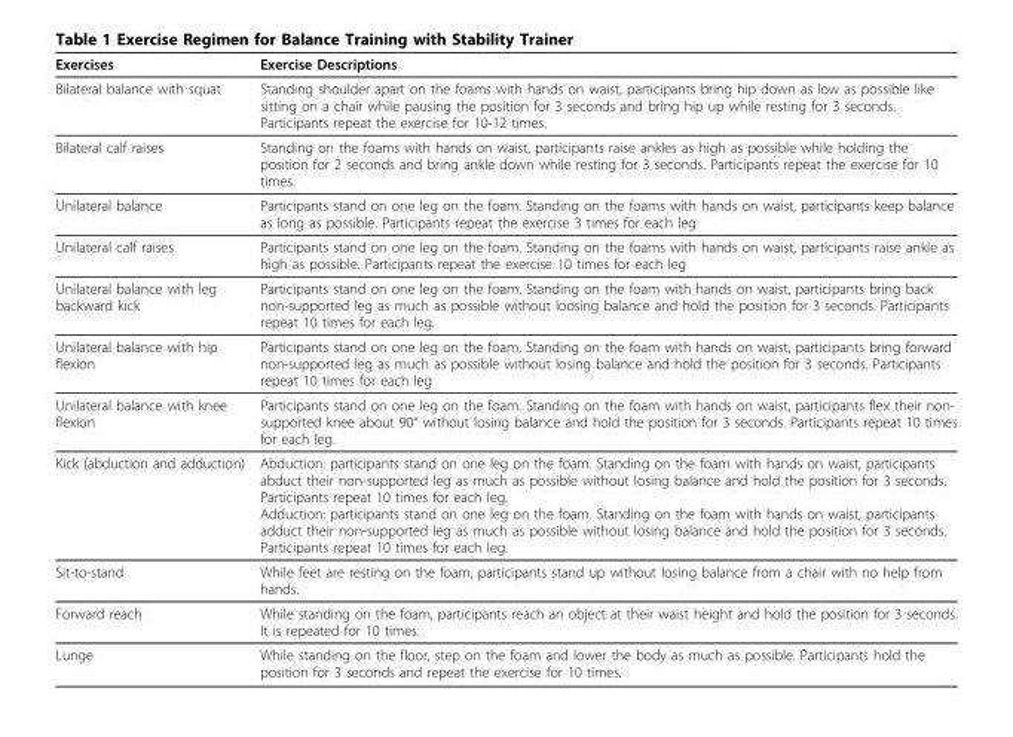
<table><thead><tr><td>Exercises</td><td>Exercise Descriptions</td></tr></thead><tbody><tr><td>Bilateral balance with squat</td><td>Standing shoulder apart on the foams with hands on waist, participants bring hip down as low as possible like sitting on a chair while pausing the position for 3 seconds and bring hip up while resting for 3 seconds. Participants repeat the exercise for 10-12 times.</td></tr><tr><td>Bilateral calf raises</td><td>Standing on the foams with hands on waist, participants raise ankles as high as possible while holding the position for 2 seconds and bring ankle down while resting for 3 seconds. Participants repeat the exercise for 10 times.</td></tr><tr><td>Unilateral balance</td><td>Participants stand on one leg on the foam. Standing on the foams with hands on waist, participants keep balance as long as possible. Participants repeat the exercise 3 times for each leg</td></tr><tr><td>Unilateral calf raises</td><td>Participants stand on one leg on the foam. Standing on the foams with hands on waist, participants raise ankle as high as possible. Participants repeat the exercise 10 times for each leg</td></tr><tr><td>Unilateral balance with leg backward kick</td><td>Participants stand on one leg on the foam. Standing on the foam with hands on waist, participants bring back non-supported leg as much as possible without loosing balance and hold the position for 3 seconds. Participants repeat 10 times for each leg.</td></tr><tr><td>Unilateral balance with hip flexion</td><td>Participants stand on one leg on the foam. Standing on the foam with hands on waist, participants bring forward non-supported leg as much as possible without losing balance and hold the position for 3 seconds. Participants repeat 10 times for each leg</td></tr><tr><td>Unilateral balance with knee flexion</td><td>Participants stand on one leg on the foam. Standing on the foam with hands on waist, participants flex their non- supported knee about 90° without losing balance and hold the position for 3 seconds. Participants repeat 10 times for each leg.</td></tr><tr><td>Kick (abduction and adduction)</td><td>Abduction: participants stand on one leg on the foam. Standing on the foam with hands on waist, participants abduct their non-supported leg as much as possible without losing balance and hold the position for 3 seconds. Participants repeat 10 times for each leg. Adduction: participants stand on one leg on the foam. Standing on the foam with hands on waist, participants adduct their non-supported leg as much as possible without losing balance and hold the position for 3 seconds. Participants repeat 10 times for each leg.</td></tr><tr><td>Sit-to-stand</td><td>While feet are resting on the foam, participants stand up without losing balance from a chair with no help from hands.</td></tr><tr><td>Forward reach</td><td>While standing on the foam, participants reach an object at their waist height and hold the position for 3 seconds. It is repeated for 10 times.</td></tr><tr><td>Lunge</td><td>While standing on the floor, step on the foam and lower the body as much as possible. Participants hold the position for 3 seconds and repeat the exercise for 10 times.</td></tr></tbody></table>